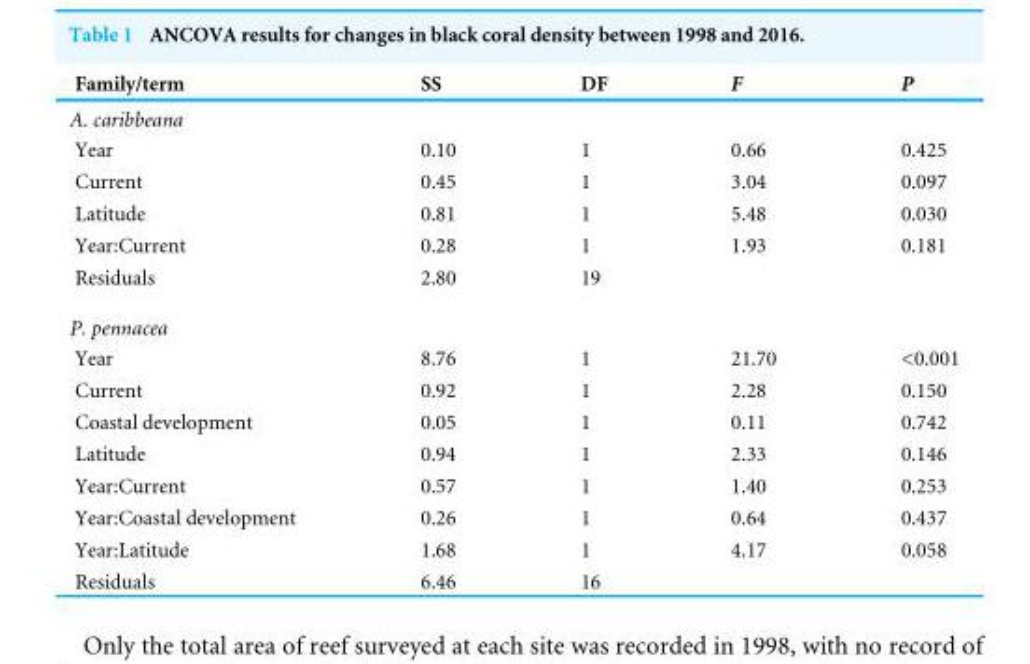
<table><thead><tr><td>Family/term</td><td>SS</td><td>DF</td><td>F</td><td>P</td></tr></thead><tbody><tr><td colspan="5">A. caribbeana</td></tr><tr><td>Year</td><td>0.10</td><td>1</td><td>0.66</td><td>0.425</td></tr><tr><td>Current</td><td>0.45</td><td>1</td><td>3.04</td><td>0.097</td></tr><tr><td>Latitude</td><td>0.81</td><td>1</td><td>5.48</td><td>0.030</td></tr><tr><td>Year:Current</td><td>0.28</td><td>1</td><td>1.93</td><td>0.181</td></tr><tr><td>Residuals</td><td>2.80</td><td>19</td><td></td><td></td></tr><tr><td colspan="5">P. pennacea</td></tr><tr><td>Year</td><td>8.76</td><td>1</td><td>21.70</td><td>&lt;0.001</td></tr><tr><td>Current</td><td>0.92</td><td>1</td><td>2.28</td><td>0.150</td></tr><tr><td>Coastal development</td><td>0.05</td><td>1</td><td>0.11</td><td>0.742</td></tr><tr><td>Latitude</td><td>0.94</td><td>1</td><td>2.33</td><td>0.146</td></tr><tr><td>Year:Current</td><td>0.57</td><td>1</td><td>1.40</td><td>0.253</td></tr><tr><td>Year:Coastal development</td><td>0.26</td><td>1</td><td>0.64</td><td>0.437</td></tr><tr><td>Year:Latitude</td><td>1.68</td><td>1</td><td>4.17</td><td>0.058</td></tr><tr><td>Residuals</td><td>6.46</td><td>16</td><td></td><td></td></tr></tbody></table>